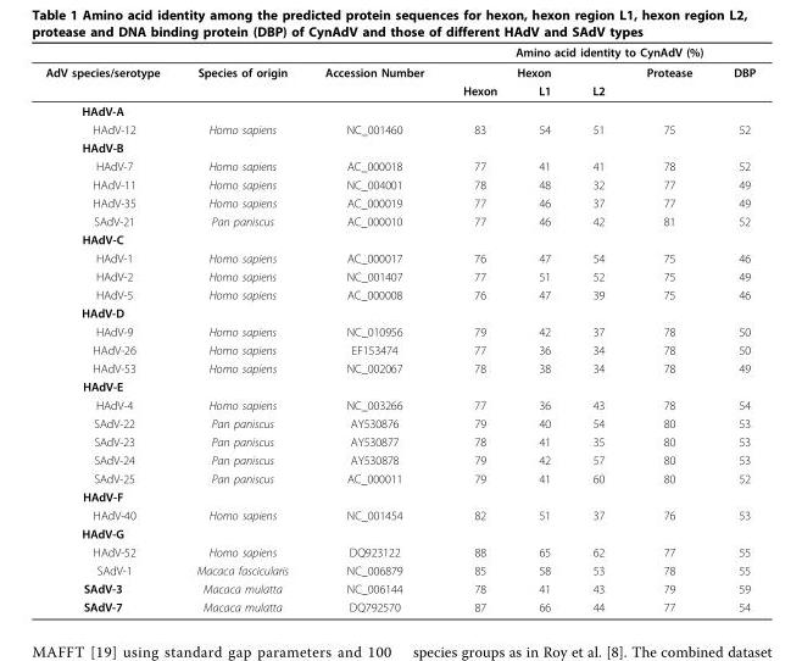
<table><thead><tr><td rowspan="3">AdV species/serotype</td><td rowspan="3">Species of origin</td><td rowspan="3">Accession Number</td><td colspan="5">Amino acid identity to CynAdV (%)</td></tr><tr><td colspan="3">Hexon</td><td rowspan="2">Protease</td><td rowspan="2">DBP</td></tr><tr><td>Hexon</td><td>L1</td><td>L2</td></tr></thead><tbody><tr><td colspan="8">HAdV-A</td></tr><tr><td>HAdV-12</td><td>Homo sapiens</td><td>NC_001460</td><td>83</td><td>54</td><td>51</td><td>75</td><td>52</td></tr><tr><td colspan="8">HAdV-B</td></tr><tr><td>HAdV-7</td><td>Homo sapiens</td><td>AC_000018</td><td>77</td><td>41</td><td>41</td><td>78</td><td>52</td></tr><tr><td>HAdV-11</td><td>Homo sapiens</td><td>NC_004001</td><td>78</td><td>48</td><td>32</td><td>77</td><td>49</td></tr><tr><td>HAdV-35</td><td>Homo sapiens</td><td>AC_000019</td><td>77</td><td>46</td><td>37</td><td>77</td><td>49</td></tr><tr><td>SAdV-21</td><td>Pan paniscus</td><td>AC_000010</td><td>77</td><td>46</td><td>42</td><td>81</td><td>52</td></tr><tr><td colspan="8">HAdV-C</td></tr><tr><td>HAdV-1</td><td>Homo sapiens</td><td>AC_000017</td><td>76</td><td>47</td><td>54</td><td>75</td><td>46</td></tr><tr><td>HAdV-2</td><td>Homo sapiens</td><td>NC_001407</td><td>77</td><td>51</td><td>52</td><td>75</td><td>49</td></tr><tr><td>HAdV-5</td><td>Homo sapiens</td><td>AC_000008</td><td>76</td><td>47</td><td>39</td><td>75</td><td>46</td></tr><tr><td colspan="8">HAdV-D</td></tr><tr><td>HAdV-9</td><td>Homo sapiens</td><td>NC_010956</td><td>79</td><td>42</td><td>37</td><td>78</td><td>50</td></tr><tr><td>HAdV-26</td><td>Homo sapiens</td><td>EF153474</td><td>77</td><td>36</td><td>34</td><td>78</td><td>50</td></tr><tr><td>HAdV-53</td><td>Homo sapiens</td><td>NC_002067</td><td>78</td><td>38</td><td>34</td><td>78</td><td>49</td></tr><tr><td colspan="8">HAdV-E</td></tr><tr><td>HAdV-4</td><td>Homo sapiens</td><td>NC_003266</td><td>77</td><td>36</td><td>43</td><td>78</td><td>54</td></tr><tr><td>SAdV-22</td><td>Pan paniscus</td><td>AY530876</td><td>79</td><td>40</td><td>54</td><td>80</td><td>53</td></tr><tr><td>SAdV-23</td><td>Pan paniscus</td><td>AY530877</td><td>78</td><td>41</td><td>35</td><td>80</td><td>53</td></tr><tr><td>SAdV-24</td><td>Pan paniscus</td><td>AY530878</td><td>79</td><td>42</td><td>57</td><td>80</td><td>53</td></tr><tr><td>SAdV-25</td><td>Pan paniscus</td><td>AC_000011</td><td>79</td><td>41</td><td>60</td><td>80</td><td>52</td></tr><tr><td colspan="8">HAdV-F</td></tr><tr><td>HAdV-40</td><td>Homo sapiens</td><td>NC_001454</td><td>82</td><td>51</td><td>37</td><td>76</td><td>53</td></tr><tr><td colspan="8">HAdV-G</td></tr><tr><td>HAdV-52</td><td>Homo sapiens</td><td>DQ923122</td><td>88</td><td>65</td><td>62</td><td>77</td><td>55</td></tr><tr><td>SAdV-1</td><td>Macaca fascicularis</td><td>NC_006879</td><td>85</td><td>58</td><td>53</td><td>78</td><td>55</td></tr><tr><td>SAdV-3</td><td>Macaca mulatta</td><td>NC_006144</td><td>78</td><td>41</td><td>43</td><td>79</td><td>59</td></tr><tr><td>SAdV-7</td><td>Macaca mulatta</td><td>DQ792570</td><td>87</td><td>66</td><td>44</td><td>77</td><td>54</td></tr></tbody></table>